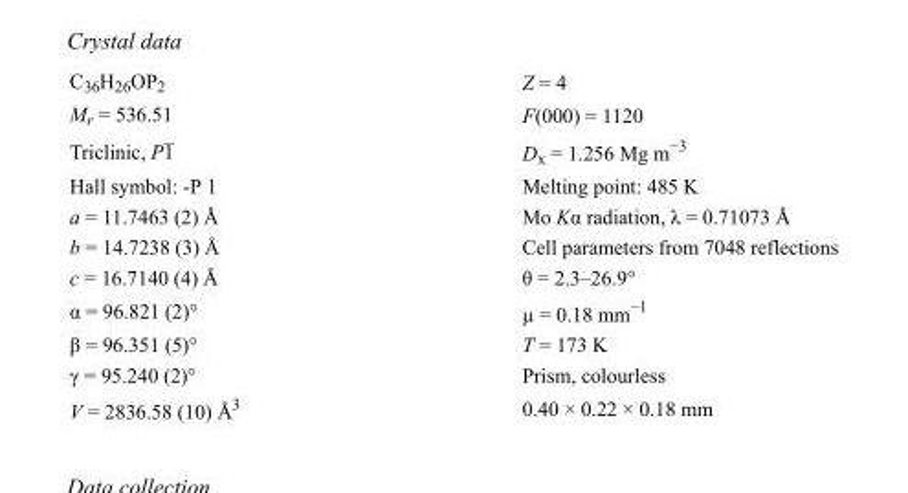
<table><tbody><tr><td>C<sub>36</sub>H<sub>26</sub>OP<sub>2</sub></td><td>Z = 4</td></tr><tr><td>M<sub>r</sub> = 536.51</td><td>F(000) = 1120</td></tr><tr><td>Triclinic, P1</td><td>D<sub>x</sub> = 1.256 Mg m<sup>−3</sup></td></tr><tr><td>Hall symbol: -P 1</td><td>Melting point: 485 K</td></tr><tr><td>a = 11.7463 (2) Å</td><td>Mo Kα radiation, λ = 0.71073 Å</td></tr><tr><td>b = 14.7238 (3) Å</td><td>Cell parameters from 7048 reflections</td></tr><tr><td>c = 16.7140 (4) Å</td><td>θ = 2.3–26.9°</td></tr><tr><td>α = 96.821 (2)°</td><td>µ = 0.18 mm<sup>−1</sup></td></tr><tr><td>β = 96.351 (5)°</td><td>T = 173 K</td></tr><tr><td>γ = 95.240 (2)°</td><td>Prism, colourless</td></tr><tr><td>V = 2836.58 (10) Å<sup>3</sup></td><td>0.40 × 0.22 × 0.18 mm</td></tr></tbody></table>